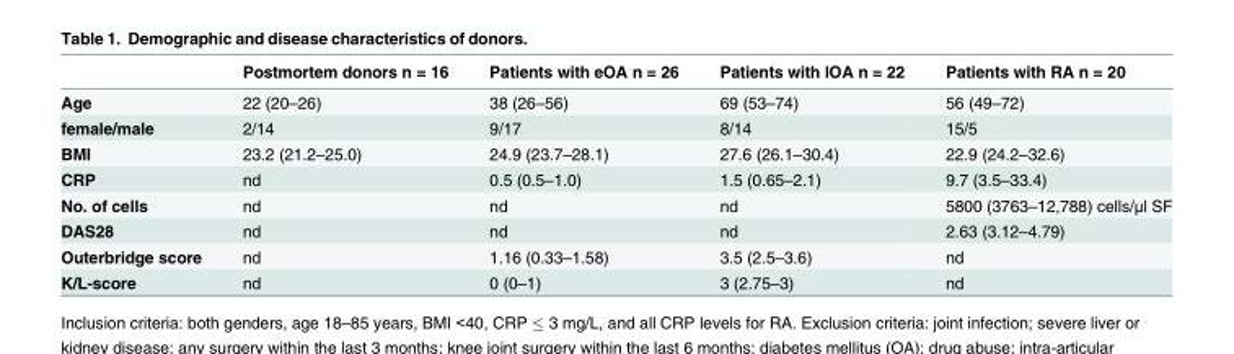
<table><thead><tr><td></td><td>Postmortem donors n = 16</td><td>Patients with eOA n = 26</td><td>Patients with lOA n = 22</td><td>Patients with RA n = 20</td></tr></thead><tbody><tr><td>Age</td><td>22 (20–26)</td><td>38 (26–56)</td><td>69 (53–74)</td><td>56 (49–72)</td></tr><tr><td>female/male</td><td>2/14</td><td>9/17</td><td>8/14</td><td>15/5</td></tr><tr><td>BMI</td><td>23.2 (21.2–25.0)</td><td>24.9 (23.7–28.1)</td><td>27.6 (26.1–30.4)</td><td>22.9 (24.2–32.6)</td></tr><tr><td>CRP</td><td>nd</td><td>0.5 (0.5–1.0)</td><td>1.5 (0.65–2.1)</td><td>9.7 (3.5–33.4)</td></tr><tr><td>No. of cells</td><td>nd</td><td>nd</td><td>nd</td><td>5800 (3763–12,788) cells/μl SF</td></tr><tr><td>DAS28</td><td>nd</td><td>nd</td><td>nd</td><td>2.63 (3.12–4.79)</td></tr><tr><td>Outerbridge score</td><td>nd</td><td>1.16 (0.33–1.58)</td><td>3.5 (2.5–3.6)</td><td>nd</td></tr><tr><td>K/L-score</td><td>nd</td><td>0 (0–1)</td><td>3 (2.75–3)</td><td>nd</td></tr></tbody></table>